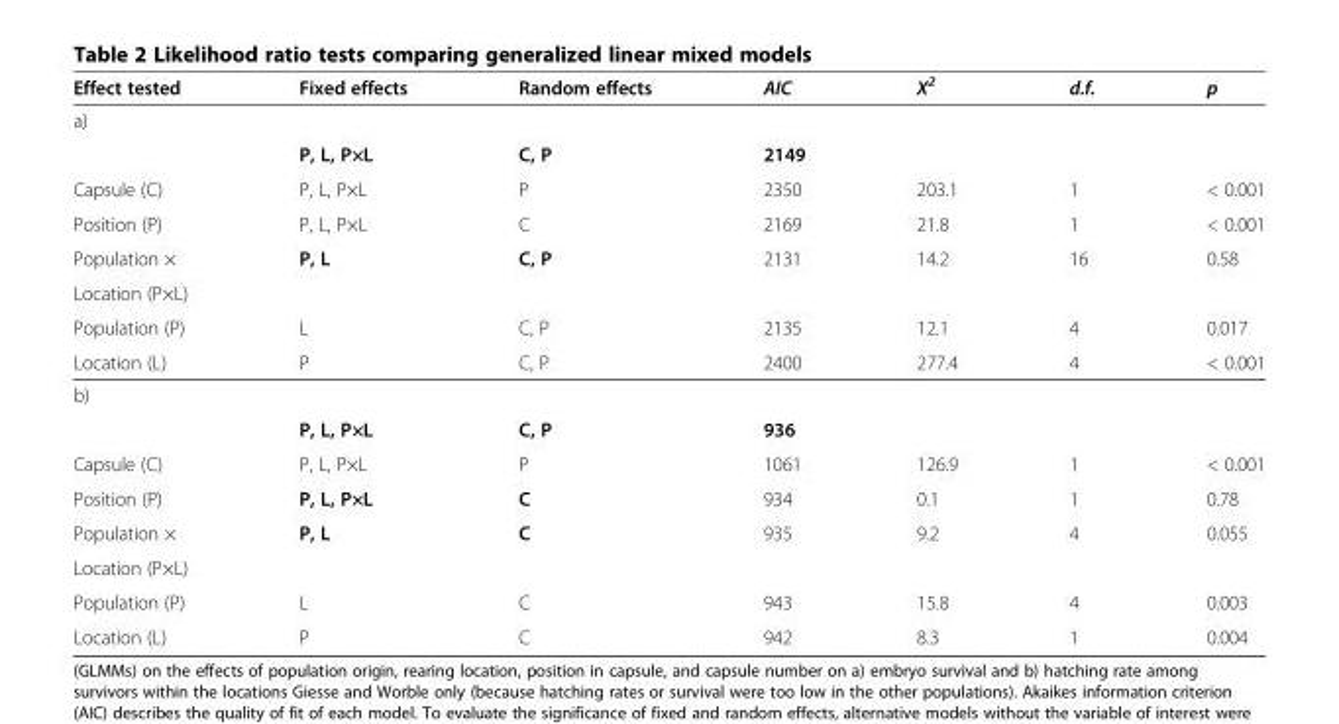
<table><thead><tr><td>Effect tested</td><td>Fixed effects</td><td>Random effects</td><td>AIC</td><td>X<sup>2</sup></td><td>d.f.</td><td>p</td></tr></thead><tbody><tr><td colspan="7">a)</td></tr><tr><td></td><td>P, L, P×L</td><td>C, P</td><td>2149</td><td></td><td></td><td></td></tr><tr><td>Capsule (C)</td><td>P, L, P×L</td><td>P</td><td>2350</td><td>203.1</td><td>1</td><td>&lt; 0.001</td></tr><tr><td>Position (P)</td><td>P, L, P×L</td><td>C</td><td>2169</td><td>21.8</td><td>1</td><td>&lt; 0.001</td></tr><tr><td>Population ×</td><td>P, L</td><td>C, P</td><td>2131</td><td>14.2</td><td>16</td><td>0.58</td></tr><tr><td colspan="7">Location (P×L)</td></tr><tr><td>Population (P)</td><td>L</td><td>C, P</td><td>2135</td><td>12.1</td><td>4</td><td>0.017</td></tr><tr><td>Location (L)</td><td>P</td><td>C, P</td><td>2400</td><td>277.4</td><td>4</td><td>&lt; 0.001</td></tr><tr><td colspan="7">b)</td></tr><tr><td></td><td>P, L, P×L</td><td>C, P</td><td>936</td><td></td><td></td><td></td></tr><tr><td>Capsule (C)</td><td>P, L, P×L</td><td>P</td><td>1061</td><td>126.9</td><td>1</td><td>&lt; 0.001</td></tr><tr><td>Position (P)</td><td>P, L, P×L</td><td>C</td><td>934</td><td>0.1</td><td>1</td><td>0.78</td></tr><tr><td>Population ×</td><td>P, L</td><td>C</td><td>935</td><td>9.2</td><td>4</td><td>0.055</td></tr><tr><td colspan="7">Location (P×L)</td></tr><tr><td>Population (P)</td><td>L</td><td>C</td><td>943</td><td>15.8</td><td>4</td><td>0.003</td></tr><tr><td>Location (L)</td><td>P</td><td>C</td><td>942</td><td>8.3</td><td>1</td><td>0.004</td></tr></tbody></table>